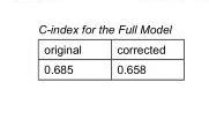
<table><tbody><tr><td>original</td><td>corrected</td></tr><tr><td>0.685</td><td>0.658</td></tr></tbody></table>